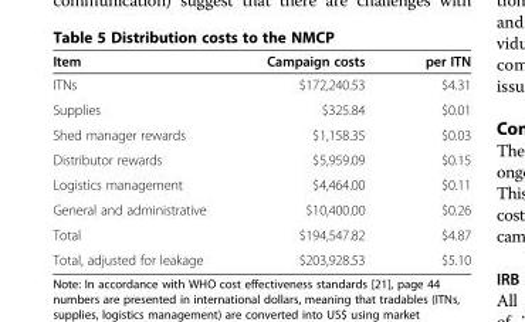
<table><thead><tr><td>Item</td><td>Campaign costs</td><td>per ITN</td></tr></thead><tbody><tr><td>ITNs</td><td>$172,240.53</td><td>$4.31</td></tr><tr><td>Supplies</td><td>$325.84</td><td>$0.01</td></tr><tr><td>Shed manager rewards</td><td>$1,158.35</td><td>$0.03</td></tr><tr><td>Distributor rewards</td><td>$5,959.09</td><td>$0.15</td></tr><tr><td>Logistics management</td><td>$4,464.00</td><td>$0.11</td></tr><tr><td>General and administrative</td><td>$10,400.00</td><td>$0.26</td></tr><tr><td>Total</td><td>$194,547.82</td><td>$4.87</td></tr><tr><td>Total, adjusted for leakage</td><td>$203,928.53</td><td>$5.10</td></tr></tbody></table>